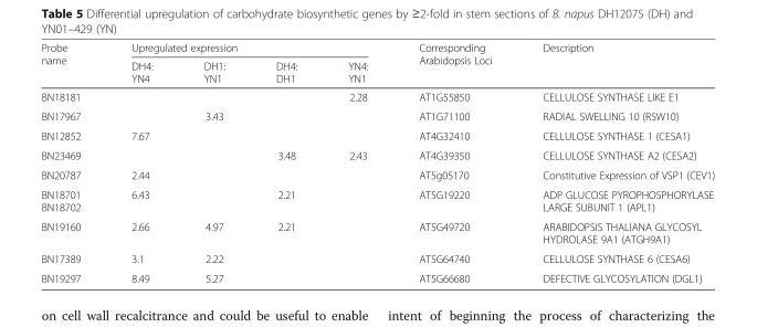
<table><thead><tr><td rowspan="2">Probe name</td><td colspan="4">Upregulated expression</td><td rowspan="2">Corresponding Arabidopsis Loci</td><td rowspan="2">Description</td></tr><tr><td>DH4: YN4</td><td>DH1: YN1</td><td>DH4: DH1</td><td>YN4: YN1</td></tr></thead><tbody><tr><td>BN18181</td><td></td><td></td><td></td><td>2.28</td><td>AT1G55850</td><td>CELLULOSE SYNTHASE LIKE E1</td></tr><tr><td>BN17967</td><td></td><td>3.43</td><td></td><td></td><td>AT1G71100</td><td>RADIAL SWELLING 10 (RSW10)</td></tr><tr><td>BN12852</td><td>7.67</td><td></td><td></td><td></td><td>AT4G32410</td><td>CELLULOSE SYNTHASE 1 (CESA1)</td></tr><tr><td>BN23469</td><td></td><td></td><td>3.48</td><td>2.43</td><td>AT4G39350</td><td>CELLULOSE SYNTHASE A2 (CESA2)</td></tr><tr><td>BN20787</td><td>2.44</td><td></td><td></td><td></td><td>AT5g05170</td><td>Constitutive Expression of VSP1 (CEV1)</td></tr><tr><td>BN18701 BN18702</td><td>6.43</td><td></td><td>2.21</td><td></td><td>AT5G19220</td><td>ADP GLUCOSE PYROPHOSPHORYLASE LARGE SUBUNIT 1 (APL1)</td></tr><tr><td>BN19160</td><td>2.66</td><td>4.97</td><td>2.21</td><td></td><td>AT5G49720</td><td>ARABIDOPSIS THALIANA GLYCOSYL HYDROLASE 9A1 (ATGH9A1)</td></tr><tr><td>BN17389</td><td>3.1</td><td>2.22</td><td></td><td></td><td>AT5G64740</td><td>CELLULOSE SYNTHASE 6 (CESA6)</td></tr><tr><td>BN19297</td><td>8.49</td><td>5.27</td><td></td><td></td><td>AT5G66680</td><td>DEFECTIVE GLYCOSYLATION (DGL1)</td></tr></tbody></table>